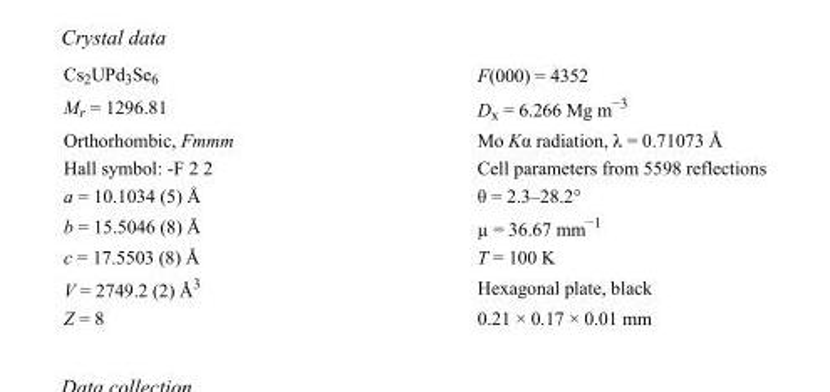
<table><tbody><tr><td>Cs<sub>2</sub>UPd<sub>3</sub>Se<sub>6</sub></td><td>F(000) = 4352</td></tr><tr><td>M<sub>r</sub> = 1296.81</td><td>D<sub>x</sub> = 6.266 Mg m<sup>−3</sup></td></tr><tr><td>Orthorhombic, Fmmm</td><td>Mo Kα radiation, λ = 0.71073 Å</td></tr><tr><td>Hall symbol: -F 2 2</td><td>Cell parameters from 5598 reflections</td></tr><tr><td>a = 10.1034 (5) Å</td><td>θ = 2.3–28.2°</td></tr><tr><td>b = 15.5046 (8) Å</td><td>µ = 36.67 mm<sup>−1</sup></td></tr><tr><td>c = 17.5503 (8) Å</td><td>T = 100 K</td></tr><tr><td>V = 2749.2 (2) Å<sup>3</sup></td><td>Hexagonal plate, black</td></tr><tr><td>Z = 8</td><td>0.21 × 0.17 × 0.01 mm</td></tr></tbody></table>